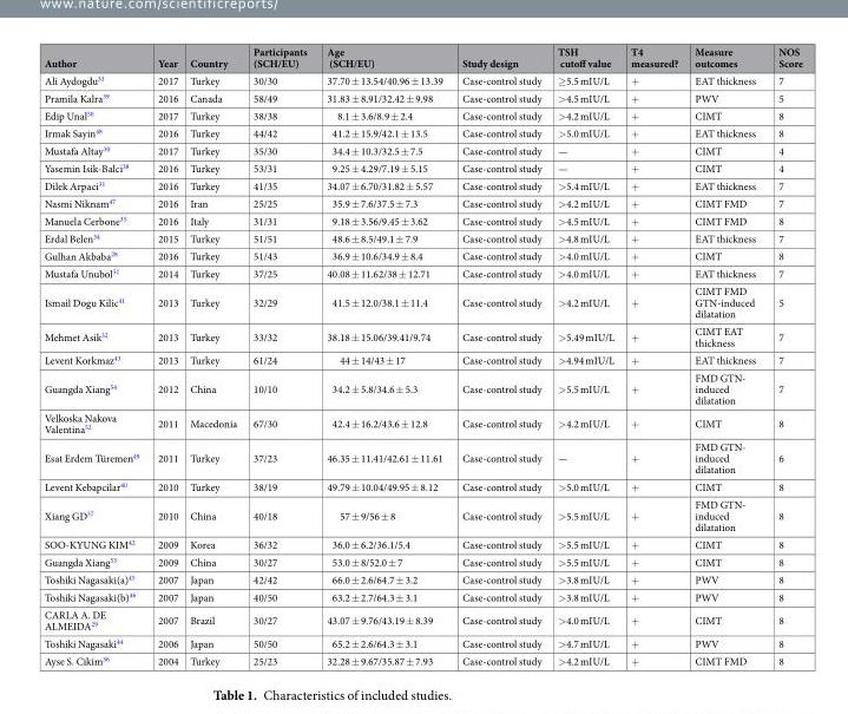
<table><thead><tr><td>Author</td><td>Year</td><td>Country</td><td>Participants (SCH/EU)</td><td>Age (SCH/EU)</td><td>Study design</td><td>TSH cutoff value</td><td>T4 measured?</td><td>Measure outcomes</td><td>NOS Score</td></tr></thead><tbody><tr><td>Ali Aydogdu<sup>33</sup></td><td>2017</td><td>Turkey</td><td>30/30</td><td>37.70 ± 13.54/40.96 ± 13.39</td><td>Case-control study</td><td>≥5.5 mIU/L</td><td>+</td><td>EAT thickness</td><td>7</td></tr><tr><td>Pramila Kalra<sup>39</sup></td><td>2016</td><td>Canada</td><td>58/49</td><td>31.83 ± 8.91/32.42 ± 9.98</td><td>Case-control study</td><td>&gt;4.5 mIU/L</td><td>+</td><td>PWV</td><td>5</td></tr><tr><td>Edip Unal<sup>50</sup></td><td>2017</td><td>Turkey</td><td>38/38</td><td>8.1 ± 3.6/8.9 ± 2.4</td><td>Case-control study</td><td>&gt;4.2 mIU/L</td><td>+</td><td>CIMT</td><td>8</td></tr><tr><td>Irmak Sayin<sup>48</sup></td><td>2016</td><td>Turkey</td><td>44/42</td><td>41.2 ± 15.9/42.1 ± 13.5</td><td>Case-control study</td><td>&gt;5.0 mIU/L</td><td>+</td><td>EAT thickness</td><td>8</td></tr><tr><td>Mustafa Altay<sup>30</sup></td><td>2017</td><td>Turkey</td><td>35/30</td><td>34.4 ± 10.3/32.5 ± 7.5</td><td>Case-control study</td><td>—</td><td>+</td><td>CIMT</td><td>4</td></tr><tr><td>Yasemin Isik-Balci<sup>38</sup></td><td>2016</td><td>Turkey</td><td>53/31</td><td>9.25 ± 4.29/7.19 ± 5.15</td><td>Case-control study</td><td>—</td><td>+</td><td>CIMT</td><td>4</td></tr><tr><td>Dilek Arpaci<sup>31</sup></td><td>2016</td><td>Turkey</td><td>41/35</td><td>34.07 ± 6.70/31.82 ± 5.57</td><td>Case-control study</td><td>&gt;5.4 mIU/L</td><td>+</td><td>EAT thickness</td><td>7</td></tr><tr><td>Nasmi Niknam<sup>47</sup></td><td>2016</td><td>Iran</td><td>25/25</td><td>35.9 ± 7.6/37.5 ± 7.3</td><td>Case-control study</td><td>&gt;4.2 mIU/L</td><td>+</td><td>CIMT FMD</td><td>7</td></tr><tr><td>Manuela Cerbone<sup>35</sup></td><td>2016</td><td>Italy</td><td>31/31</td><td>9.18 ± 3.56/9.45 ± 3.62</td><td>Case-control study</td><td>&gt;4.5 mIU/L</td><td>+</td><td>CIMT FMD</td><td>8</td></tr><tr><td>Erdal Belen<sup>34</sup></td><td>2015</td><td>Turkey</td><td>51/51</td><td>48.6 ± 8.5/49.1 ± 7.9</td><td>Case-control study</td><td>&gt;4.8 mIU/L</td><td>+</td><td>EAT thickness</td><td>7</td></tr><tr><td>Gulhan Akbaba<sup>28</sup></td><td>2016</td><td>Turkey</td><td>51/43</td><td>36.9 ± 10.6/34.9 ± 8.4</td><td>Case-control study</td><td>&gt;4.0 mIU/L</td><td>+</td><td>CIMT</td><td>8</td></tr><tr><td>Mustafa Unubol<sup>51</sup></td><td>2014</td><td>Turkey</td><td>37/25</td><td>40.08 ± 11.62/38 ± 12.71</td><td>Case-control study</td><td>&gt;4.0 mIU/L</td><td>+</td><td>EAT thickness</td><td>7</td></tr><tr><td>Ismail Dogu Kilic<sup>41</sup></td><td>2013</td><td>Turkey</td><td>32/29</td><td>41.5 ± 12.0/38.1 ± 11.4</td><td>Case-control study</td><td>&gt;4.2 mIU/L</td><td>+</td><td>CIMT FMD GTN-induced dilatation</td><td>5</td></tr><tr><td>Mehmet Asik<sup>32</sup></td><td>2013</td><td>Turkey</td><td>33/32</td><td>38.18 ± 15.06/39.41/9.74</td><td>Case-control study</td><td>&gt;5.49 mIU/L</td><td>+</td><td>CIMT EAT thickness</td><td>7</td></tr><tr><td>Levent Korkmaz<sup>43</sup></td><td>2013</td><td>Turkey</td><td>61/24</td><td>44 ± 14/43 ± 17</td><td>Case-control study</td><td>&gt;4.94 mIU/L</td><td>+</td><td>EAT thickness</td><td>7</td></tr><tr><td>Guangda Xiang<sup>54</sup></td><td>2012</td><td>China</td><td>10/10</td><td>34.2 ± 5.8/34.6 ± 5.3</td><td>Case-control study</td><td>&gt;5.5 mIU/L</td><td>+</td><td>FMD GTN- induced dilatation</td><td>7</td></tr><tr><td>Velkoska Nakova Valentina<sup>52</sup></td><td>2011</td><td>Macedonia</td><td>67/30</td><td>42.4 ± 16.2/43.6 ± 12.8</td><td>Case-control study</td><td>&gt;4.2 mIU/L</td><td>+</td><td>CIMT</td><td>8</td></tr><tr><td>Esat Erdem Türemen<sup>49</sup></td><td>2011</td><td>Turkey</td><td>37/23</td><td>46.35 ± 11.41/42.61 ± 11.61</td><td>Case-control study</td><td>—</td><td>+</td><td>FMD GTN- induced dilatation</td><td>6</td></tr><tr><td>Levent Kebapcilar<sup>40</sup></td><td>2010</td><td>Turkey</td><td>38/19</td><td>49.79 ± 10.04/49.95 ± 8.12</td><td>Case-control study</td><td>&gt;5.0 mIU/L</td><td>+</td><td>CIMT</td><td>8</td></tr><tr><td>Xiang GD<sup>37</sup></td><td>2010</td><td>China</td><td>40/18</td><td>57 ± 9/56 ± 8</td><td>Case-control study</td><td>&gt;5.5 mIU/L</td><td>+</td><td>FMD GTN- induced dilatation</td><td>8</td></tr><tr><td>SOO-KYUNG KIM<sup>42</sup></td><td>2009</td><td>Korea</td><td>36/32</td><td>36.0 ± 6.2/36.1/5.4</td><td>Case-control study</td><td>&gt;5.5 mIU/L</td><td>+</td><td>CIMT</td><td>8</td></tr><tr><td>Guangda Xiang<sup>53</sup></td><td>2009</td><td>China</td><td>30/27</td><td>53.0 ± 8/52.0 ± 7</td><td>Case-control study</td><td>&gt;5.5 mIU/L</td><td>+</td><td>CIMT</td><td>8</td></tr><tr><td>Toshiki Nagasaki(a)<sup>45</sup></td><td>2007</td><td>Japan</td><td>42/42</td><td>66.0 ± 2.6/64.7 ± 3.2</td><td>Case-control study</td><td>&gt;3.8 mIU/L</td><td>+</td><td>PWV</td><td>8</td></tr><tr><td>Toshiki Nagasaki(b)<sup>46</sup></td><td>2007</td><td>Japan</td><td>40/50</td><td>63.2 ± 2.7/64.3 ± 3.1</td><td>Case-control study</td><td>&gt;3.8 mIU/L</td><td>+</td><td>PWV</td><td>8</td></tr><tr><td>CARLA A. DE ALMEIDA<sup>29</sup></td><td>2007</td><td>Brazil</td><td>30/27</td><td>43.07 ± 9.76/43.19 ± 8.39</td><td>Case-control study</td><td>&gt;4.0 mIU/L</td><td>+</td><td>CIMT</td><td>8</td></tr><tr><td>Toshiki Nagasaki<sup>44</sup></td><td>2006</td><td>Japan</td><td>50/50</td><td>65.2 ± 2.6/64.3 ± 3.1</td><td>Case-control study</td><td>&gt;4.7 mIU/L</td><td>+</td><td>PWV</td><td>8</td></tr><tr><td>Ayse S. Cikim<sup>36</sup></td><td>2004</td><td>Turkey</td><td>25/23</td><td>32.28 ± 9.67/35.87 ± 7.93</td><td>Case-control study</td><td>&gt;4.2 mIU/L</td><td>+</td><td>CIMT FMD</td><td>8</td></tr></tbody></table>